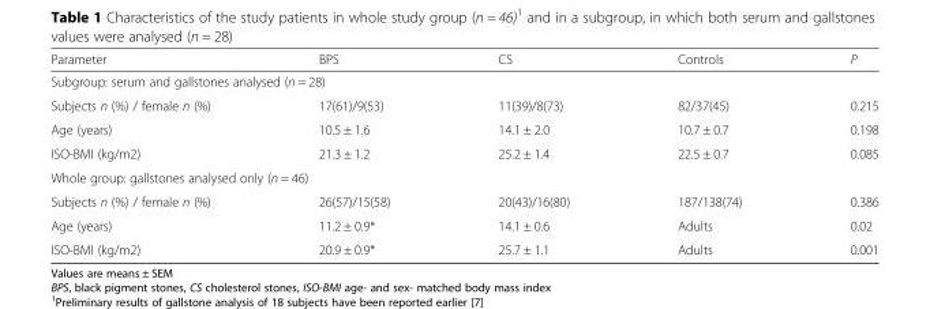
<table><thead><tr><td>Parameter</td><td>BPS</td><td>CS</td><td>Controls</td><td>P</td></tr></thead><tbody><tr><td colspan="5">Subgroup: serum and gallstones analysed (n = 28)</td></tr><tr><td>Subjects n (%) / female n (%)</td><td>17(61)/9(53)</td><td>11(39)/8(73)</td><td>82/37(45)</td><td>0.215</td></tr><tr><td>Age (years)</td><td>10.5 ± 1.6</td><td>14.1 ± 2.0</td><td>10.7 ± 0.7</td><td>0.198</td></tr><tr><td>ISO-BMI (kg/m2)</td><td>21.3 ± 1.2</td><td>25.2 ± 1.4</td><td>22.5 ± 0.7</td><td>0.085</td></tr><tr><td colspan="5">Whole group: gallstones analysed only (n = 46)</td></tr><tr><td>Subjects n (%) / female n (%)</td><td>26(57)/15(58)</td><td>20(43)/16(80)</td><td>187/138(74)</td><td>0.386</td></tr><tr><td>Age (years)</td><td>11.2 ± 0.9*</td><td>14.1 ± 0.6</td><td>Adults</td><td>0.02</td></tr><tr><td>ISO-BMI (kg/m2)</td><td>20.9 ± 0.9*</td><td>25.7 ± 1.1</td><td>Adults</td><td>0.001</td></tr></tbody></table>